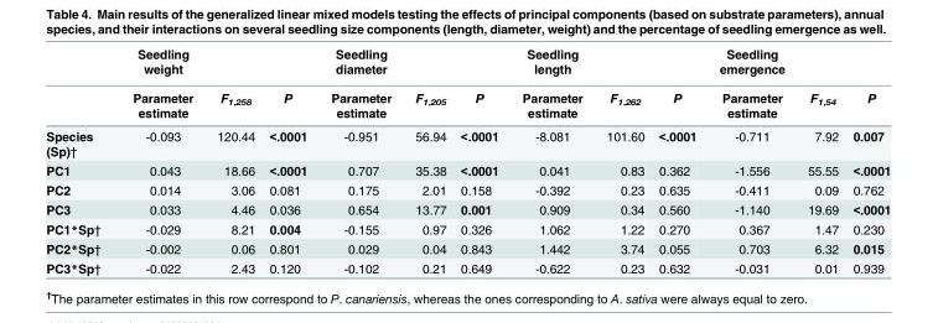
<table><thead><tr><td rowspan="2"></td><td rowspan="2">Seedling weight Parameter estimate</td><td rowspan="2">F<sub>1,258</sub></td><td rowspan="2">P</td><td rowspan="2">Seedling diameter Parameter estimate</td><td rowspan="2">F<sub>1,205</sub></td><td rowspan="2">P</td><td rowspan="2">Seedling length Parameter estimate</td><td rowspan="2">F<sub>1,262</sub></td><td rowspan="2">P</td><td rowspan="2">Seedling emergence Parameter estimate</td><td rowspan="2">F<sub>1,54</sub></td><td rowspan="2">P</td></tr><tr></tr></thead><tbody><tr><td>Species (Sp)†</td><td>-0.093</td><td>120.44</td><td>&lt;.0001</td><td>-0.951</td><td>56.94</td><td>&lt;.0001</td><td>-8.081</td><td>101.60</td><td>&lt;.0001</td><td>-0.711</td><td>7.92</td><td>0.007</td></tr><tr><td>PC1</td><td>0.043</td><td>18.66</td><td>&lt;.0001</td><td>0.707</td><td>35.38</td><td>&lt;.0001</td><td>0.041</td><td>0.83</td><td>0.362</td><td>-1.556</td><td>55.55</td><td>&lt;.0001</td></tr><tr><td>PC2</td><td>0.014</td><td>3.06</td><td>0.081</td><td>0.175</td><td>2.01</td><td>0.158</td><td>-0.392</td><td>0.23</td><td>0.635</td><td>-0.411</td><td>0.09</td><td>0.762</td></tr><tr><td>PC3</td><td>0.033</td><td>4.46</td><td>0.036</td><td>0.654</td><td>13.77</td><td>0.001</td><td>0.909</td><td>0.34</td><td>0.560</td><td>-1.140</td><td>19.69</td><td>&lt;.0001</td></tr><tr><td>PC1*Sp†</td><td>-0.029</td><td>8.21</td><td>0.004</td><td>-0.155</td><td>0.97</td><td>0.326</td><td>1.062</td><td>1.22</td><td>0.270</td><td>0.367</td><td>1.47</td><td>0.230</td></tr><tr><td>PC2*Sp†</td><td>-0.002</td><td>0.06</td><td>0.801</td><td>0.029</td><td>0.04</td><td>0.843</td><td>1.442</td><td>3.74</td><td>0.055</td><td>0.703</td><td>6.32</td><td>0.015</td></tr><tr><td>PC3*Sp†</td><td>-0.022</td><td>2.43</td><td>0.120</td><td>-0.102</td><td>0.21</td><td>0.649</td><td>-0.622</td><td>0.23</td><td>0.632</td><td>-0.031</td><td>0.01</td><td>0.939</td></tr></tbody></table>